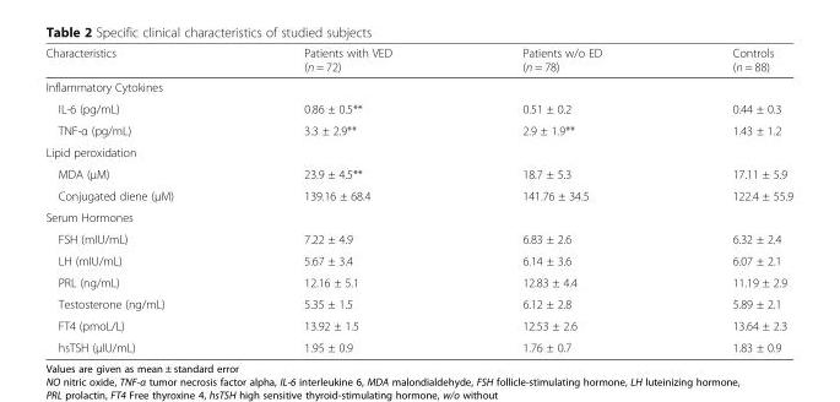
<table><thead><tr><td>Characteristics</td><td>Patients with VED (n = 72)</td><td>Patients w/o ED (n = 78)</td><td>Controls (n = 88)</td></tr></thead><tbody><tr><td colspan="4">Inflammatory Cytokines</td></tr><tr><td>IL-6 (pg/mL)</td><td>0.86 ± 0.5**</td><td>0.51 ± 0.2</td><td>0.44 ± 0.3</td></tr><tr><td>TNF-α (pg/mL)</td><td>3.3 ± 2.9**</td><td>2.9 ± 1.9**</td><td>1.43 ± 1.2</td></tr><tr><td colspan="4">Lipid peroxidation</td></tr><tr><td>MDA (μM)</td><td>23.9 ± 4.5**</td><td>18.7 ± 5.3</td><td>17.11 ± 5.9</td></tr><tr><td>Conjugated diene (μM)</td><td>139.16 ± 68.4</td><td>141.76 ± 34.5</td><td>122.4 ± 55.9</td></tr><tr><td colspan="4">Serum Hormones</td></tr><tr><td>FSH (mIU/mL)</td><td>7.22 ± 4.9</td><td>6.83 ± 2.6</td><td>6.32 ± 2.4</td></tr><tr><td>LH (mIU/mL)</td><td>5.67 ± 3.4</td><td>6.14 ± 3.6</td><td>6.07 ± 2.1</td></tr><tr><td>PRL (ng/mL)</td><td>12.16 ± 5.1</td><td>12.83 ± 4.4</td><td>11.19 ± 2.9</td></tr><tr><td>Testosterone (ng/mL)</td><td>5.35 ± 1.5</td><td>6.12 ± 2.8</td><td>5.89 ± 2.1</td></tr><tr><td>FT4 (pmoL/L)</td><td>13.92 ± 1.5</td><td>12.53 ± 2.6</td><td>13.64 ± 2.3</td></tr><tr><td>hsTSH (μIU/mL)</td><td>1.95 ± 0.9</td><td>1.76 ± 0.7</td><td>1.83 ± 0.9</td></tr></tbody></table>